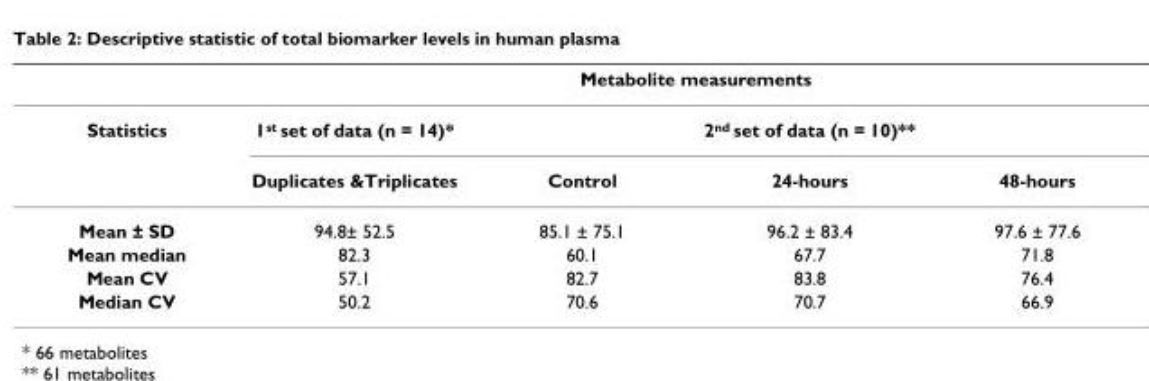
<table><thead><tr><td rowspan="3">Statistics</td><td colspan="4">Metabolite measurements</td></tr><tr><td rowspan="2">1st set of data (n = 14)* Duplicates &amp;Triplicates</td><td colspan="3">2nd set of data (n = 10)**</td></tr><tr><td>Control</td><td>24-hours</td><td>48-hours</td></tr></thead><tbody><tr><td>Mean ± SD</td><td>94.8± 52.5</td><td>85.1 ± 75.1</td><td>96.2 ± 83.4</td><td>97.6 ± 77.6</td></tr><tr><td>Mean median</td><td>82.3</td><td>60.1</td><td>67.7</td><td>71.8</td></tr><tr><td>Mean CV</td><td>57.1</td><td>82.7</td><td>83.8</td><td>76.4</td></tr><tr><td>Median CV</td><td>50.2</td><td>70.6</td><td>70.7</td><td>66.9</td></tr></tbody></table>